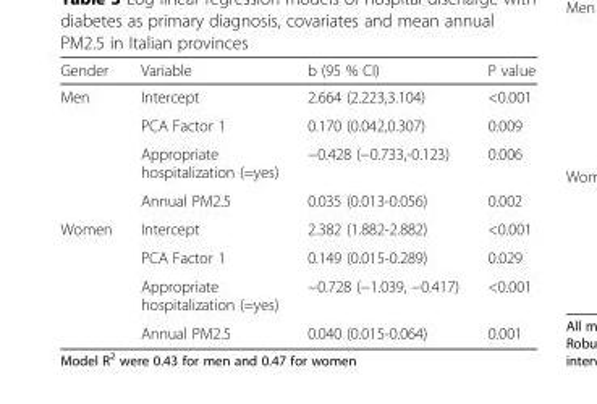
<table><thead><tr><td>Gender</td><td>Variable</td><td>b (95 % CI)</td><td>P value</td></tr></thead><tbody><tr><td rowspan="4">Men</td><td>Intercept</td><td>2.664 (2.223,3.104)</td><td>&lt;0.001</td></tr><tr><td>PCA Factor 1</td><td>0.170 (0.042,0.307)</td><td>0.009</td></tr><tr><td>Appropriate hospitalization (=yes)</td><td>−0.428 (−0.733,-0.123)</td><td>0.006</td></tr><tr><td>Annual PM2.5</td><td>0.035 (0.013-0.056)</td><td>0.002</td></tr><tr><td rowspan="4">Women</td><td>Intercept</td><td>2.382 (1.882-2.882)</td><td>&lt;0.001</td></tr><tr><td>PCA Factor 1</td><td>0.149 (0.015-0.289)</td><td>0.029</td></tr><tr><td>Appropriate hospitalization (=yes)</td><td>−0.728 (−1.039, −0.417)</td><td>&lt;0.001</td></tr><tr><td>Annual PM2.5</td><td>0.040 (0.015-0.064)</td><td>0.001</td></tr></tbody></table>